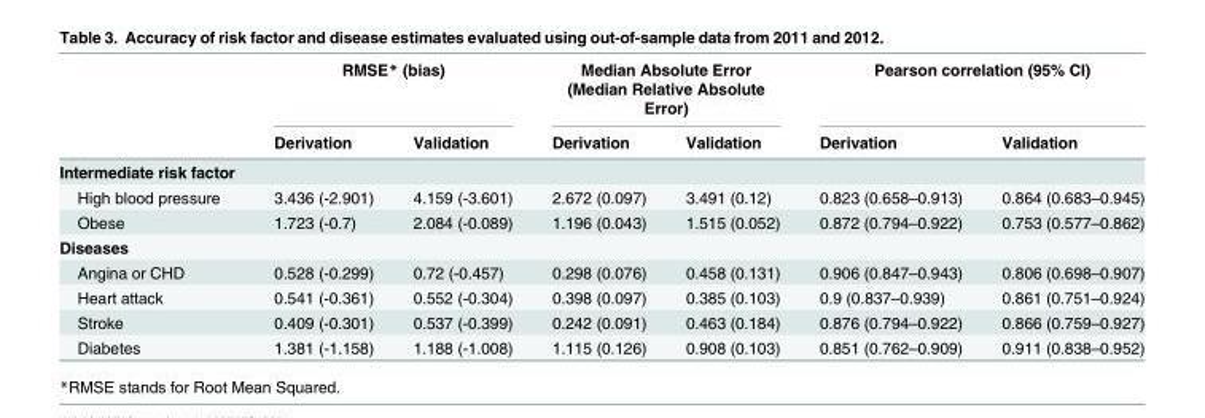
<table><thead><tr><td rowspan="2"></td><td colspan="2">RMSE* (bias)</td><td colspan="2">Median Absolute Error (Median Relative Absolute Error)</td><td colspan="2">Pearson correlation (95% CI)</td></tr><tr><td>Derivation</td><td>Validation</td><td>Derivation</td><td>Validation</td><td>Derivation</td><td>Validation</td></tr></thead><tbody><tr><td colspan="7">Intermediate risk factor</td></tr><tr><td>High blood pressure</td><td>3.436 (-2.901)</td><td>4.159 (-3.601)</td><td>2.672 (0.097)</td><td>3.491 (0.12)</td><td>0.823 (0.658–0.913)</td><td>0.864 (0.683–0.945)</td></tr><tr><td>Obese</td><td>1.723 (-0.7)</td><td>2.084 (-0.089)</td><td>1.196 (0.043)</td><td>1.515 (0.052)</td><td>0.872 (0.794–0.922)</td><td>0.753 (0.577–0.862)</td></tr><tr><td colspan="7">Diseases</td></tr><tr><td>Angina or CHD</td><td>0.528 (-0.299)</td><td>0.72 (-0.457)</td><td>0.298 (0.076)</td><td>0.458 (0.131)</td><td>0.906 (0.847–0.943)</td><td>0.806 (0.698–0.907)</td></tr><tr><td>Heart attack</td><td>0.541 (-0.361)</td><td>0.552 (-0.304)</td><td>0.398 (0.097)</td><td>0.385 (0.103)</td><td>0.9 (0.837–0.939)</td><td>0.861 (0.751–0.924)</td></tr><tr><td>Stroke</td><td>0.409 (-0.301)</td><td>0.537 (-0.399)</td><td>0.242 (0.091)</td><td>0.463 (0.184)</td><td>0.876 (0.794–0.922)</td><td>0.866 (0.759–0.927)</td></tr><tr><td>Diabetes</td><td>1.381 (-1.158)</td><td>1.188 (-1.008)</td><td>1.115 (0.126)</td><td>0.908 (0.103)</td><td>0.851 (0.762–0.909)</td><td>0.911 (0.838–0.952)</td></tr></tbody></table>